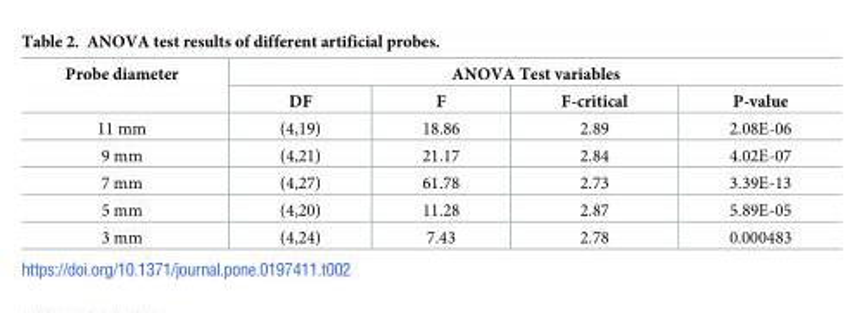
<table><thead><tr><td rowspan="2">Probe diameter</td><td colspan="4">ANOVA Test variables</td></tr><tr><td>DF</td><td>F</td><td>F-critical</td><td>P-value</td></tr></thead><tbody><tr><td>11 mm</td><td>(4,19)</td><td>18.86</td><td>2.89</td><td>2.08E-06</td></tr><tr><td>9 mm</td><td>(4,21)</td><td>21.17</td><td>2.84</td><td>4.02E-07</td></tr><tr><td>7 mm</td><td>(4,27)</td><td>61.78</td><td>2.73</td><td>3.39E-13</td></tr><tr><td>5 mm</td><td>(4,20)</td><td>11.28</td><td>2.87</td><td>5.89E-05</td></tr><tr><td>3 mm</td><td>(4,24)</td><td>7.43</td><td>2.78</td><td>0.000483</td></tr></tbody></table>